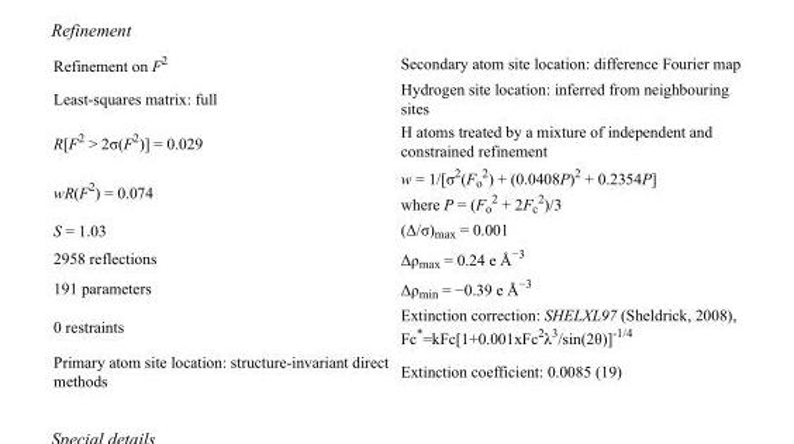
<table><tbody><tr><td>Refinement on F<sup>2</sup></td><td>Secondary atom site location: difference Fourier map</td></tr><tr><td>Least-squares matrix: full</td><td>Hydrogen site location: inferred from neighbouring sites</td></tr><tr><td>R[F<sup>2</sup> &gt; 2σ(F<sup>2</sup>)] = 0.029</td><td>H atoms treated by a mixture of independent and constrained refinement</td></tr><tr><td>wR(F<sup>2</sup>) = 0.074</td><td>w = 1/[σ<sup>2</sup>(F<sub>o</sub> <sup>2</sup>) + (0.0408P)<sup>2</sup> + 0.2354P] where P = (F<sub>o</sub> <sup>2</sup> + 2F<sub>c</sub> <sup>2</sup>)/3</td></tr><tr><td>S = 1.03</td><td>(Δ/σ)<sub>max</sub> = 0.001</td></tr><tr><td>2958 reflections</td><td>Δρ<sub>max</sub> = 0.24 e Å<sup>−3</sup></td></tr><tr><td>191 parameters</td><td>Δρ<sub>min</sub> = −0.39 e Å<sup>−3</sup></td></tr><tr><td>0 restraints</td><td>Extinction correction: SHELXL97 (Sheldrick, 2008), Fc*=kFc[1+0.001xFc<sup>2</sup>λ<sup>3</sup>/sin(2θ)]<sup>-1/4</sup></td></tr><tr><td>Primary atom site location: structure-invariant direct methods</td><td>Extinction coefficient: 0.0085 (19)</td></tr></tbody></table>